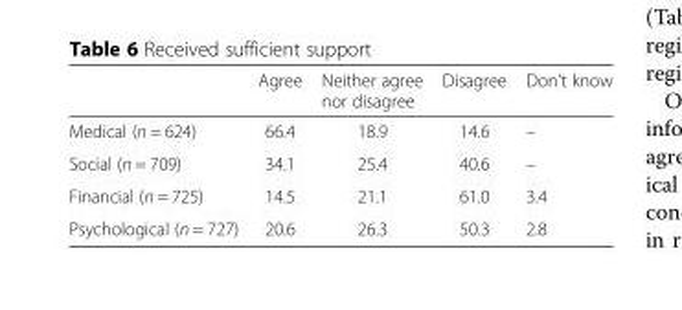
<table><thead><tr><td></td><td>Agree</td><td>Neither agree nor disagree</td><td>Disagree</td><td>Don’t know</td></tr></thead><tbody><tr><td>Medical (n = 624)</td><td>66.4</td><td>18.9</td><td>14.6</td><td>–</td></tr><tr><td>Social (n = 709)</td><td>34.1</td><td>25.4</td><td>40.6</td><td>–</td></tr><tr><td>Financial (n = 725)</td><td>14.5</td><td>21.1</td><td>61.0</td><td>3.4</td></tr><tr><td>Psychological (n = 727)</td><td>20.6</td><td>26.3</td><td>50.3</td><td>2.8</td></tr></tbody></table>